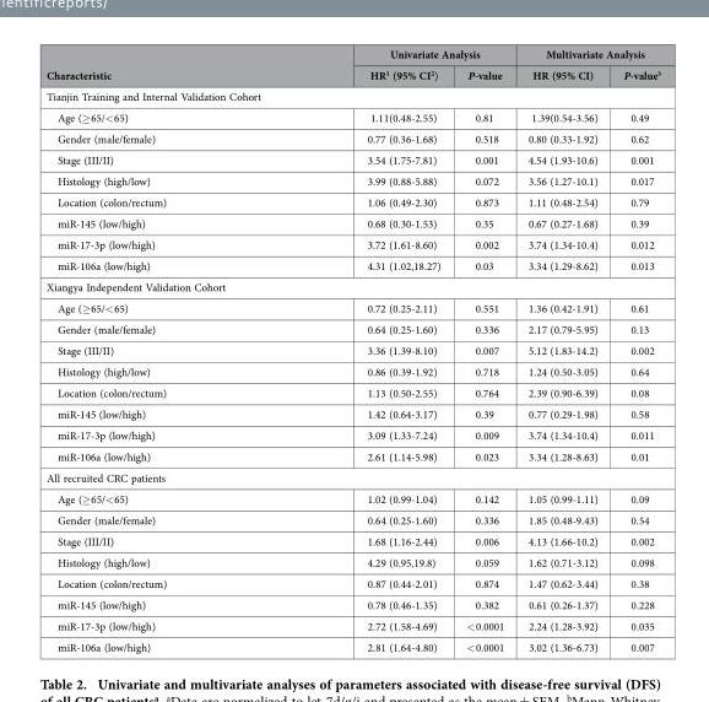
<table><thead><tr><td rowspan="2">Characteristic</td><td colspan="2">Univariate Analysis</td><td colspan="2">Multivariate Analysis</td></tr><tr><td>HR<sup>1</sup> (95% CI<sup>2</sup>)</td><td>P-value</td><td>HR (95% CI)</td><td>P-value<sup>b</sup></td></tr></thead><tbody><tr><td colspan="5">Tianjin Training and Internal Validation Cohort</td></tr><tr><td>Age (≥ 65/&lt; 65)</td><td>1.11(0.48-2.55)</td><td>0.81</td><td>1.39(0.54-3.56)</td><td>0.49</td></tr><tr><td>Gender (male/female)</td><td>0.77 (0.36-1.68)</td><td>0.518</td><td>0.80 (0.33-1.92)</td><td>0.62</td></tr><tr><td>Stage (III/II)</td><td>3.54 (1.75-7.81)</td><td>0.001</td><td>4.54 (1.93-10.6)</td><td>0.001</td></tr><tr><td>Histology (high/low)</td><td>3.99 (0.88-5.88)</td><td>0.072</td><td>3.56 (1.27-10.1)</td><td>0.017</td></tr><tr><td>Location (colon/rectum)</td><td>1.06 (0.49-2.30)</td><td>0.873</td><td>1.11 (0.48-2.54)</td><td>0.79</td></tr><tr><td>miR-145 (low/high)</td><td>0.68 (0.30-1.53)</td><td>0.35</td><td>0.67 (0.27-1.68)</td><td>0.39</td></tr><tr><td>miR-17-3p (low/high)</td><td>3.72 (1.61-8.60)</td><td>0.002</td><td>3.74 (1.34-10.4)</td><td>0.012</td></tr><tr><td>miR-106a (low/high)</td><td>4.31 (1.02,18.27)</td><td>0.03</td><td>3.34 (1.29-8.62)</td><td>0.013</td></tr><tr><td colspan="5">Xiangya Independent Validation Cohort</td></tr><tr><td>Age (≥ 65/&lt; 65)</td><td>0.72 (0.25-2.11)</td><td>0.551</td><td>1.36 (0.42-1.91)</td><td>0.61</td></tr><tr><td>Gender (male/female)</td><td>0.64 (0.25-1.60)</td><td>0.336</td><td>2.17 (0.79-5.95)</td><td>0.13</td></tr><tr><td>Stage (III/II)</td><td>3.36 (1.39-8.10)</td><td>0.007</td><td>5.12 (1.83-14.2)</td><td>0.002</td></tr><tr><td>Histology (high/low)</td><td>0.86 (0.39-1.92)</td><td>0.718</td><td>1.24 (0.50-3.05)</td><td>0.64</td></tr><tr><td>Location (colon/rectum)</td><td>1.13 (0.50-2.55)</td><td>0.764</td><td>2.39 (0.90-6.39)</td><td>0.08</td></tr><tr><td>miR-145 (low/high)</td><td>1.42 (0.64-3.17)</td><td>0.39</td><td>0.77 (0.29-1.98)</td><td>0.58</td></tr><tr><td>miR-17-3p (low/high)</td><td>3.09 (1.33-7.24)</td><td>0.009</td><td>3.74 (1.34-10.4)</td><td>0.011</td></tr><tr><td>miR-106a (low/high)</td><td>2.61 (1.14-5.98)</td><td>0.023</td><td>3.34 (1.28-8.63)</td><td>0.01</td></tr><tr><td colspan="5">All recruited CRC patients</td></tr><tr><td>Age (≥ 65/&lt; 65)</td><td>1.02 (0.99-1.04)</td><td>0.142</td><td>1.05 (0.99-1.11)</td><td>0.09</td></tr><tr><td>Gender (male/female)</td><td>0.64 (0.25-1.60)</td><td>0.336</td><td>1.85 (0.48-9.43)</td><td>0.54</td></tr><tr><td>Stage (III/II)</td><td>1.68 (1.16-2.44)</td><td>0.006</td><td>4.13 (1.66-10.2)</td><td>0.002</td></tr><tr><td>Histology (high/low)</td><td>4.29 (0.95,19.8)</td><td>0.059</td><td>1.62 (0.71-3.12)</td><td>0.098</td></tr><tr><td>Location (colon/rectum)</td><td>0.87 (0.44-2.01)</td><td>0.874</td><td>1.47 (0.62-3.44)</td><td>0.38</td></tr><tr><td>miR-145 (low/high)</td><td>0.78 (0.46-1.35)</td><td>0.382</td><td>0.61 (0.26-1.37)</td><td>0.228</td></tr><tr><td>miR-17-3p (low/high)</td><td>2.72 (1.58-4.69)</td><td>&lt; 0.0001</td><td>2.24 (1.28-3.92)</td><td>0.035</td></tr><tr><td>miR-106a (low/high)</td><td>2.81 (1.64-4.80)</td><td>&lt; 0.0001</td><td>3.02 (1.36-6.73)</td><td>0.007</td></tr></tbody></table>